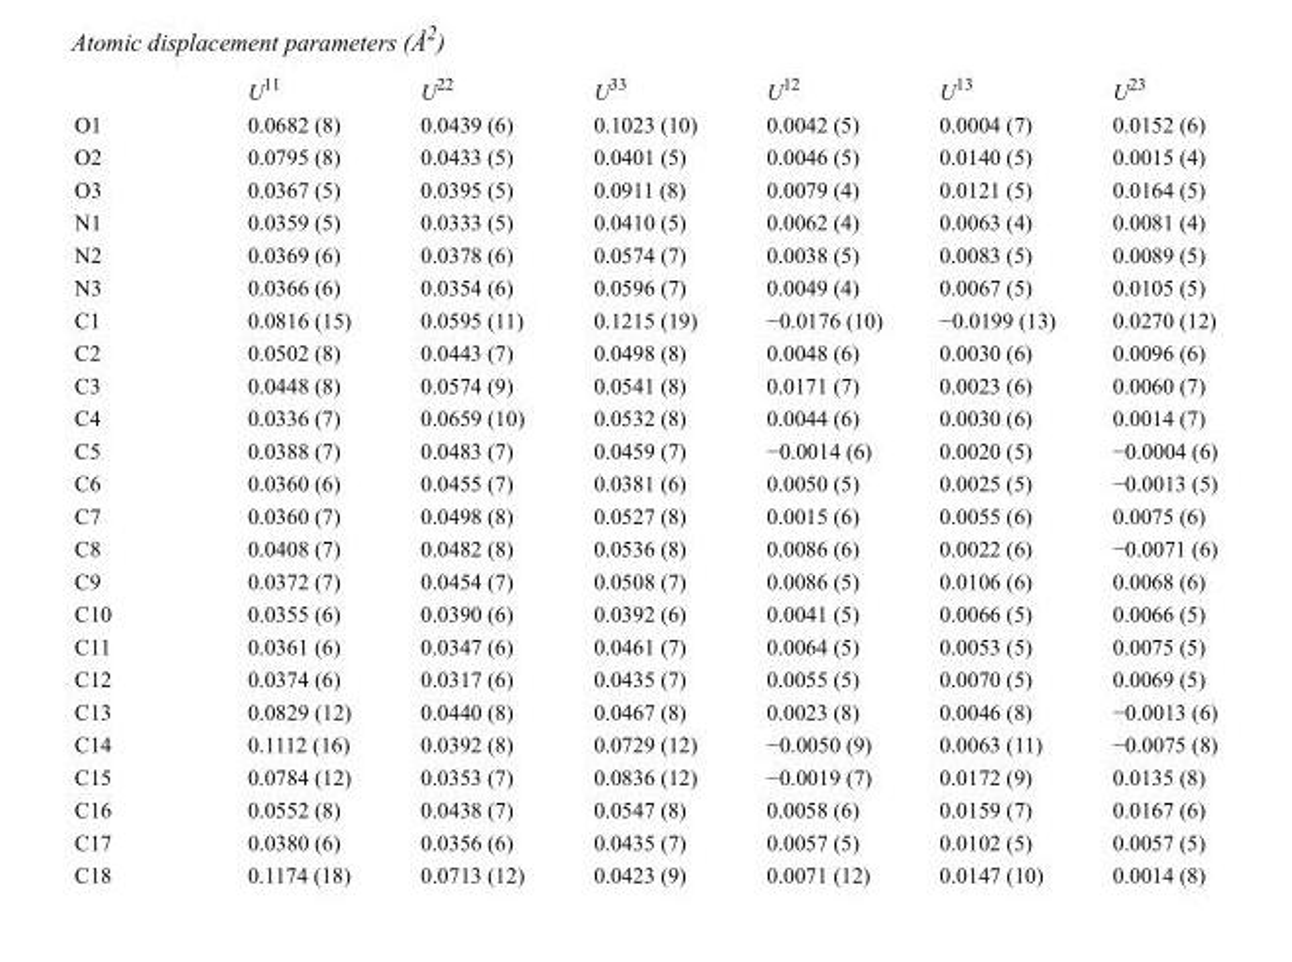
<table><thead><tr><td></td><td>U<sup>11</sup></td><td>U<sup>22</sup></td><td>U<sup>33</sup></td><td>U<sup>12</sup></td><td>U<sup>13</sup></td><td>U<sup>23</sup></td></tr></thead><tbody><tr><td>O1</td><td>0.0682 (8)</td><td>0.0439 (6)</td><td>0.1023 (10)</td><td>0.0042 (5)</td><td>0.0004 (7)</td><td>0.0152 (6)</td></tr><tr><td>O2</td><td>0.0795 (8)</td><td>0.0433 (5)</td><td>0.0401 (5)</td><td>0.0046 (5)</td><td>0.0140 (5)</td><td>0.0015 (4)</td></tr><tr><td>O3</td><td>0.0367 (5)</td><td>0.0395 (5)</td><td>0.0911 (8)</td><td>0.0079 (4)</td><td>0.0121 (5)</td><td>0.0164 (5)</td></tr><tr><td>N1</td><td>0.0359 (5)</td><td>0.0333 (5)</td><td>0.0410 (5)</td><td>0.0062 (4)</td><td>0.0063 (4)</td><td>0.0081 (4)</td></tr><tr><td>N2</td><td>0.0369 (6)</td><td>0.0378 (6)</td><td>0.0574 (7)</td><td>0.0038 (5)</td><td>0.0083 (5)</td><td>0.0089 (5)</td></tr><tr><td>N3</td><td>0.0366 (6)</td><td>0.0354 (6)</td><td>0.0596 (7)</td><td>0.0049 (4)</td><td>0.0067 (5)</td><td>0.0105 (5)</td></tr><tr><td>C1</td><td>0.0816 (15)</td><td>0.0595 (11)</td><td>0.1215 (19)</td><td>−0.0176 (10)</td><td>−0.0199 (13)</td><td>0.0270 (12)</td></tr><tr><td>C2</td><td>0.0502 (8)</td><td>0.0443 (7)</td><td>0.0498 (8)</td><td>0.0048 (6)</td><td>0.0030 (6)</td><td>0.0096 (6)</td></tr><tr><td>C3</td><td>0.0448 (8)</td><td>0.0574 (9)</td><td>0.0541 (8)</td><td>0.0171 (7)</td><td>0.0023 (6)</td><td>0.0060 (7)</td></tr><tr><td>C4</td><td>0.0336 (7)</td><td>0.0659 (10)</td><td>0.0532 (8)</td><td>0.0044 (6)</td><td>0.0030 (6)</td><td>0.0014 (7)</td></tr><tr><td>C5</td><td>0.0388 (7)</td><td>0.0483 (7)</td><td>0.0459 (7)</td><td>−0.0014 (6)</td><td>0.0020 (5)</td><td>−0.0004 (6)</td></tr><tr><td>C6</td><td>0.0360 (6)</td><td>0.0455 (7)</td><td>0.0381 (6)</td><td>0.0050 (5)</td><td>0.0025 (5)</td><td>−0.0013 (5)</td></tr><tr><td>C7</td><td>0.0360 (7)</td><td>0.0498 (8)</td><td>0.0527 (8)</td><td>0.0015 (6)</td><td>0.0055 (6)</td><td>0.0075 (6)</td></tr><tr><td>C8</td><td>0.0408 (7)</td><td>0.0482 (8)</td><td>0.0536 (8)</td><td>0.0086 (6)</td><td>0.0022 (6)</td><td>−0.0071 (6)</td></tr><tr><td>C9</td><td>0.0372 (7)</td><td>0.0454 (7)</td><td>0.0508 (7)</td><td>0.0086 (5)</td><td>0.0106 (6)</td><td>0.0068 (6)</td></tr><tr><td>C10</td><td>0.0355 (6)</td><td>0.0390 (6)</td><td>0.0392 (6)</td><td>0.0041 (5)</td><td>0.0066 (5)</td><td>0.0066 (5)</td></tr><tr><td>C11</td><td>0.0361 (6)</td><td>0.0347 (6)</td><td>0.0461 (7)</td><td>0.0064 (5)</td><td>0.0053 (5)</td><td>0.0075 (5)</td></tr><tr><td>C12</td><td>0.0374 (6)</td><td>0.0317 (6)</td><td>0.0435 (7)</td><td>0.0055 (5)</td><td>0.0070 (5)</td><td>0.0069 (5)</td></tr><tr><td>C13</td><td>0.0829 (12)</td><td>0.0440 (8)</td><td>0.0467 (8)</td><td>0.0023 (8)</td><td>0.0046 (8)</td><td>−0.0013 (6)</td></tr><tr><td>C14</td><td>0.1112 (16)</td><td>0.0392 (8)</td><td>0.0729 (12)</td><td>−0.0050 (9)</td><td>0.0063 (11)</td><td>−0.0075 (8)</td></tr><tr><td>C15</td><td>0.0784 (12)</td><td>0.0353 (7)</td><td>0.0836 (12)</td><td>−0.0019 (7)</td><td>0.0172 (9)</td><td>0.0135 (8)</td></tr><tr><td>C16</td><td>0.0552 (8)</td><td>0.0438 (7)</td><td>0.0547 (8)</td><td>0.0058 (6)</td><td>0.0159 (7)</td><td>0.0167 (6)</td></tr><tr><td>C17</td><td>0.0380 (6)</td><td>0.0356 (6)</td><td>0.0435 (7)</td><td>0.0057 (5)</td><td>0.0102 (5)</td><td>0.0057 (5)</td></tr><tr><td>C18</td><td>0.1174 (18)</td><td>0.0713 (12)</td><td>0.0423 (9)</td><td>0.0071 (12)</td><td>0.0147 (10)</td><td>0.0014 (8)</td></tr></tbody></table>